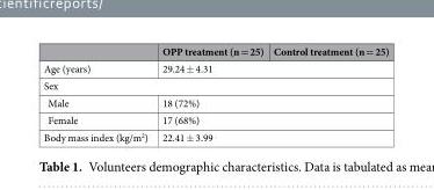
<table><thead><tr><td></td><td>OPP treatment (n = 25)</td><td>Control treatment (n = 25)</td></tr></thead><tbody><tr><td>Age (years)</td><td colspan="2">29.24 ± 4.31</td></tr><tr><td colspan="3">Sex</td></tr><tr><td>Male</td><td colspan="2">18 (72%)</td></tr><tr><td>Female</td><td colspan="2">17 (68%)</td></tr><tr><td>Body mass index (kg/m<sup>2</sup>)</td><td colspan="2">22.41 ± 3.99</td></tr></tbody></table>